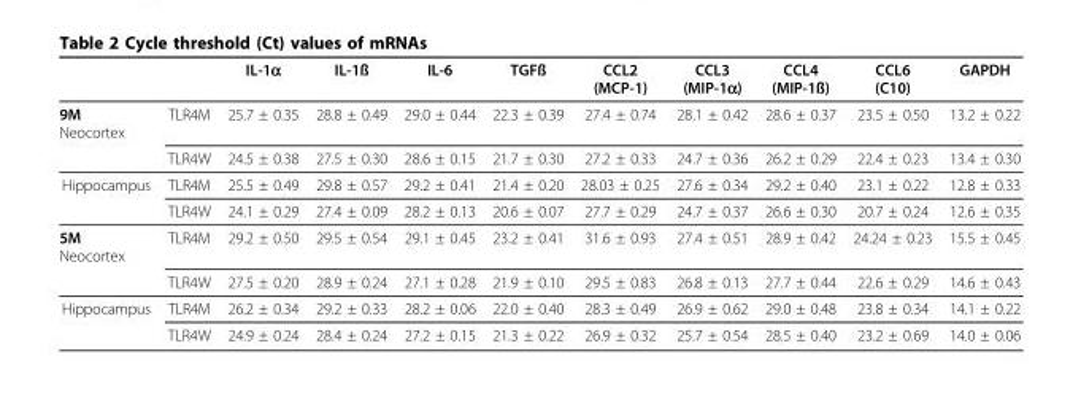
<table><thead><tr><td></td><td></td><td>IL-1α</td><td>IL-1ß</td><td>IL-6</td><td>TGFß</td><td>CCL2 (MCP-1)</td><td>CCL3 (MIP-1α)</td><td>CCL4 (MIP-1ß)</td><td>CCL6 (C10)</td><td>GAPDH</td></tr></thead><tbody><tr><td rowspan="2">9M Neocortex</td><td>TLR4M</td><td>25.7 ± 0.35</td><td>28.8 ± 0.49</td><td>29.0 ± 0.44</td><td>22.3 ± 0.39</td><td>27.4 ± 0.74</td><td>28.1 ± 0.42</td><td>28.6 ± 0.37</td><td>23.5 ± 0.50</td><td>13.2 ± 0.22</td></tr><tr><td>TLR4W</td><td>24.5 ± 0.38</td><td>27.5 ± 0.30</td><td>28.6 ± 0.15</td><td>21.7 ± 0.30</td><td>27.2 ± 0.33</td><td>24.7 ± 0.36</td><td>26.2 ± 0.29</td><td>22.4 ± 0.23</td><td>13.4 ± 0.30</td></tr><tr><td rowspan="2">Hippocampus</td><td>TLR4M</td><td>25.5 ± 0.49</td><td>29.8 ± 0.57</td><td>29.2 ± 0.41</td><td>21.4 ± 0.20</td><td>28.03 ± 0.25</td><td>27.6 ± 0.34</td><td>29.2 ± 0.40</td><td>23.1 ± 0.22</td><td>12.8 ± 0.33</td></tr><tr><td>TLR4W</td><td>24.1 ± 0.29</td><td>27.4 ± 0.09</td><td>28.2 ± 0.13</td><td>20.6 ± 0.07</td><td>27.7 ± 0.29</td><td>24.7 ± 0.37</td><td>26.6 ± 0.30</td><td>20.7 ± 0.24</td><td>12.6 ± 0.35</td></tr><tr><td rowspan="2">5M Neocortex</td><td>TLR4M</td><td>29.2 ± 0.50</td><td>29.5 ± 0.54</td><td>29.1 ± 0.45</td><td>23.2 ± 0.41</td><td>31.6 ± 0.93</td><td>27.4 ± 0.51</td><td>28.9 ± 0.42</td><td>24.24 ± 0.23</td><td>15.5 ± 0.45</td></tr><tr><td>TLR4W</td><td>27.5 ± 0.20</td><td>28.9 ± 0.24</td><td>27.1 ± 0.28</td><td>21.9 ± 0.10</td><td>29.5 ± 0.83</td><td>26.8 ± 0.13</td><td>27.7 ± 0.44</td><td>22.6 ± 0.29</td><td>14.6 ± 0.43</td></tr><tr><td rowspan="2">Hippocampus</td><td>TLR4M</td><td>26.2 ± 0.34</td><td>29.2 ± 0.33</td><td>28.2 ± 0.06</td><td>22.0 ± 0.40</td><td>28.3 ± 0.49</td><td>26.9 ± 0.62</td><td>29.0 ± 0.48</td><td>23.8 ± 0.34</td><td>14.1 ± 0.22</td></tr><tr><td>TLR4W</td><td>24.9 ± 0.24</td><td>28.4 ± 0.24</td><td>27.2 ± 0.15</td><td>21.3 ± 0.22</td><td>26.9 ± 0.32</td><td>25.7 ± 0.54</td><td>28.5 ± 0.40</td><td>23.2 ± 0.69</td><td>14.0 ± 0.06</td></tr></tbody></table>